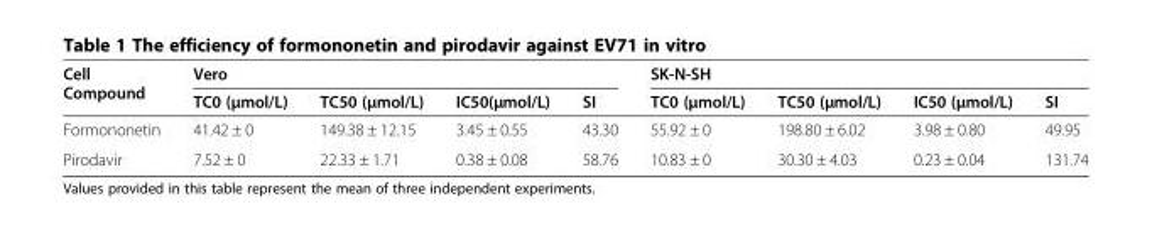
<table><thead><tr><td rowspan="2">Cell Compound</td><td colspan="4">Vero</td><td colspan="4">SK-N-SH</td></tr><tr><td>TC0 (μmol/L)</td><td>TC50 (μmol/L)</td><td>IC50(μmol/L)</td><td>SI</td><td>TC0 (μmol/L)</td><td>TC50 (μmol/L)</td><td>IC50 (μmol/L)</td><td>SI</td></tr></thead><tbody><tr><td>Formononetin</td><td>41.42 ± 0</td><td>149.38 ± 12.15</td><td>3.45 ± 0.55</td><td>43.30</td><td>55.92 ± 0</td><td>198.80 ± 6.02</td><td>3.98 ± 0.80</td><td>49.95</td></tr><tr><td>Pirodavir</td><td>7.52 ± 0</td><td>22.33 ± 1.71</td><td>0.38 ± 0.08</td><td>58.76</td><td>10.83 ± 0</td><td>30.30 ± 4.03</td><td>0.23 ± 0.04</td><td>131.74</td></tr></tbody></table>